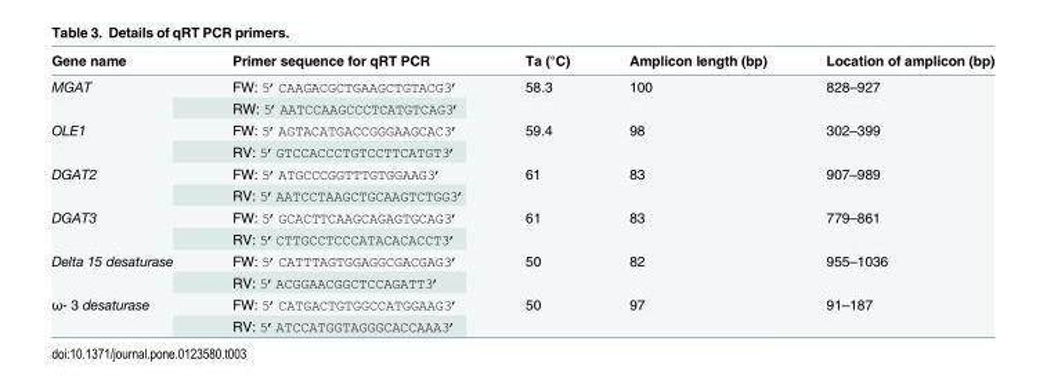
<table><thead><tr><td>Gene name</td><td>Primer sequence for qRT PCR</td><td>Ta (°C)</td><td>Amplicon length (bp)</td><td>Location of amplicon (bp)</td></tr></thead><tbody><tr><td rowspan="2">MGAT</td><td>FW: 5’CAAGACGCTGAAGCTGTACG3’</td><td rowspan="2">58.3</td><td rowspan="2">100</td><td rowspan="2">828–927</td></tr><tr><td>RW: 5’AATCCAAGCCCTCATGTCAG3’</td></tr><tr><td rowspan="2">OLE1</td><td>FW: 5’AGTACATGACCGGGAAGCAC3’</td><td rowspan="2">59.4</td><td rowspan="2">98</td><td rowspan="2">302–399</td></tr><tr><td>RV: 5’GTCCACCCTGTCCTTCATGT3’</td></tr><tr><td rowspan="2">DGAT2</td><td>FW: 5’ATGCCCGGTTTGTGGAAG3’</td><td rowspan="2">61</td><td rowspan="2">83</td><td rowspan="2">907–989</td></tr><tr><td>RV: 5’AATCCTAAGCTGCAAGTCTGG3’</td></tr><tr><td rowspan="2">DGAT3</td><td>FW: 5’GCACTTCAAGCAGAGTGCAG3’</td><td rowspan="2">61</td><td rowspan="2">83</td><td rowspan="2">779–861</td></tr><tr><td>RV: 5’CTTGCCTCCCATACACACCT3’</td></tr><tr><td rowspan="2">Delta 15 desaturase</td><td>FW: 5’CATTTAGTGGAGGCGACGAG3’</td><td rowspan="2">50</td><td rowspan="2">82</td><td rowspan="2">955–1036</td></tr><tr><td>RV: 5’ACGGAACGGCTCCAGATT3’</td></tr><tr><td rowspan="2">ω- 3 desaturase</td><td>FW: 5’CATGACTGTGGCCATGGAAG3’</td><td rowspan="2">50</td><td rowspan="2">97</td><td rowspan="2">91–187</td></tr><tr><td>RV: 5’ATCCATGGTAGGGCACCAAA3’</td></tr></tbody></table>